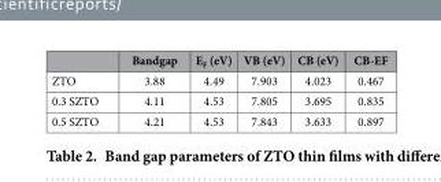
<table><thead><tr><td></td><td>Bandgap</td><td>E<sub>F</sub> (eV)</td><td>VB (eV)</td><td>CB (eV)</td><td>CB-EF</td></tr></thead><tbody><tr><td>ZTO</td><td>3.88</td><td>4.49</td><td>7.903</td><td>4.023</td><td>0.467</td></tr><tr><td>0.3 SZTO</td><td>4.11</td><td>4.53</td><td>7.805</td><td>3.695</td><td>0.835</td></tr><tr><td>0.5 SZTO</td><td>4.21</td><td>4.53</td><td>7.843</td><td>3.633</td><td>0.897</td></tr></tbody></table>